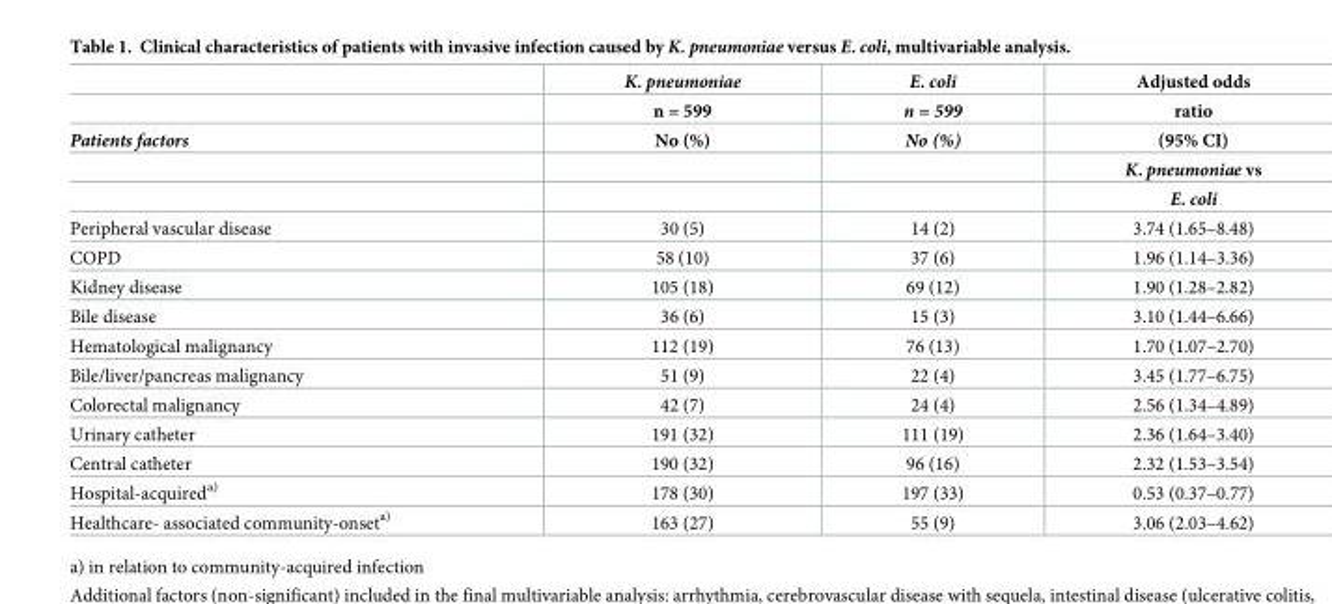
<table><thead><tr><td rowspan="5">Patients factors</td><td rowspan="5">K. pneumoniae n = 599 No (%)</td><td rowspan="5">E. coli n = 599 No (%)</td><td rowspan="5">Adjusted odds ratio (95% CI) K. pneumoniae vs E. coli</td></tr><tr></tr><tr></tr><tr></tr><tr></tr></thead><tbody><tr><td>Peripheral vascular disease</td><td>30 (5)</td><td>14 (2)</td><td>3.74 (1.65–8.48)</td></tr><tr><td>COPD</td><td>58 (10)</td><td>37 (6)</td><td>1.96 (1.14–3.36)</td></tr><tr><td>Kidney disease</td><td>105 (18)</td><td>69 (12)</td><td>1.90 (1.28–2.82)</td></tr><tr><td>Bile disease</td><td>36 (6)</td><td>15 (3)</td><td>3.10 (1.44–6.66)</td></tr><tr><td>Hematological malignancy</td><td>112 (19)</td><td>76 (13)</td><td>1.70 (1.07–2.70)</td></tr><tr><td>Bile/liver/pancreas malignancy</td><td>51 (9)</td><td>22 (4)</td><td>3.45 (1.77–6.75)</td></tr><tr><td>Colorectal malignancy</td><td>42 (7)</td><td>24 (4)</td><td>2.56 (1.34–4.89)</td></tr><tr><td>Urinary catheter</td><td>191 (32)</td><td>111 (19)</td><td>2.36 (1.64–3.40)</td></tr><tr><td>Central catheter</td><td>190 (32)</td><td>96 (16)</td><td>2.32 (1.53–3.54)</td></tr><tr><td>Hospital-acquired<sup>a)</sup></td><td>178 (30)</td><td>197 (33)</td><td>0.53 (0.37–0.77)</td></tr><tr><td>Healthcare- associated community-onset<sup>a)</sup></td><td>163 (27)</td><td>55 (9)</td><td>3.06 (2.03–4.62)</td></tr></tbody></table>